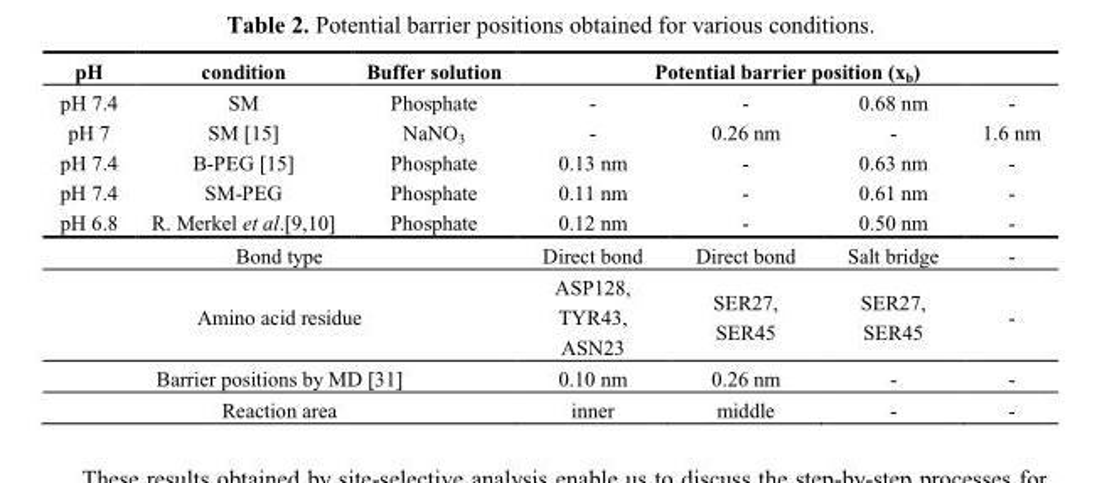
<table><thead><tr><td rowspan="2">pH pH 7.4</td><td rowspan="2">condition SM</td><td rowspan="2">Buffer solution Phosphate</td><td colspan="4">Potential barrier position (x<sub>b</sub>)</td></tr><tr><td>-</td><td>-</td><td>0.68 nm</td><td>-</td></tr></thead><tbody><tr><td>pH 7</td><td>SM [15]</td><td>NaNO<sub>3</sub></td><td>-</td><td>0.26 nm</td><td>-</td><td>1.6 nm</td></tr><tr><td>pH 7.4</td><td>B-PEG [15]</td><td>Phosphate</td><td>0.13 nm</td><td>-</td><td>0.63 nm</td><td>-</td></tr><tr><td>pH 7.4</td><td>SM-PEG</td><td>Phosphate</td><td>0.11 nm</td><td>-</td><td>0.61 nm</td><td>-</td></tr><tr><td>pH 6.8</td><td>R. Merkel et al.[9,10]</td><td>Phosphate</td><td>0.12 nm</td><td>-</td><td>0.50 nm</td><td>-</td></tr><tr><td colspan="3">Bond type</td><td>Direct bond</td><td>Direct bond</td><td>Salt bridge</td><td>-</td></tr><tr><td colspan="3">Amino acid residue</td><td>ASP128, TYR43, ASN23</td><td>SER27, SER45</td><td>SER27, SER45</td><td>-</td></tr><tr><td colspan="3">Barrier positions by MD [31]</td><td>0.10 nm</td><td>0.26 nm</td><td>-</td><td>-</td></tr><tr><td colspan="3">Reaction area</td><td>inner</td><td>middle</td><td>-</td><td>-</td></tr></tbody></table>